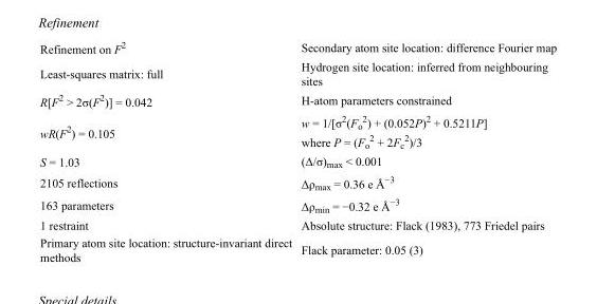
<table><tbody><tr><td>Refinement on F<sup>2</sup></td><td>Secondary atom site location: difference Fourier map</td></tr><tr><td>Least-squares matrix: full</td><td>Hydrogen site location: inferred from neighbouring sites</td></tr><tr><td>R[F<sup>2</sup> &gt; 2σ(F<sup>2</sup>)] = 0.042</td><td>H-atom parameters constrained</td></tr><tr><td>wR(F<sup>2</sup>) = 0.105</td><td>w = 1/[σ<sup>2</sup>(F<sub>o</sub> <sup>2</sup>) + (0.052P)<sup>2</sup> + 0.5211P] where P = (F<sub>o</sub> <sup>2</sup> + 2F<sub>c</sub> <sup>2</sup>)/3</td></tr><tr><td>S = 1.03</td><td>(Δ/σ)<sub>max</sub> &lt; 0.001</td></tr><tr><td>2105 reflections</td><td>Δρ<sub>max</sub> = 0.36 e Å<sup>−3</sup></td></tr><tr><td>163 parameters</td><td>Δρ<sub>min</sub> = −0.32 e Å<sup>−3</sup></td></tr><tr><td>1 restraint</td><td>Absolute structure: Flack (1983), 773 Friedel pairs</td></tr><tr><td>Primary atom site location: structure-invariant direct methods</td><td>Flack parameter: 0.05 (3)</td></tr></tbody></table>